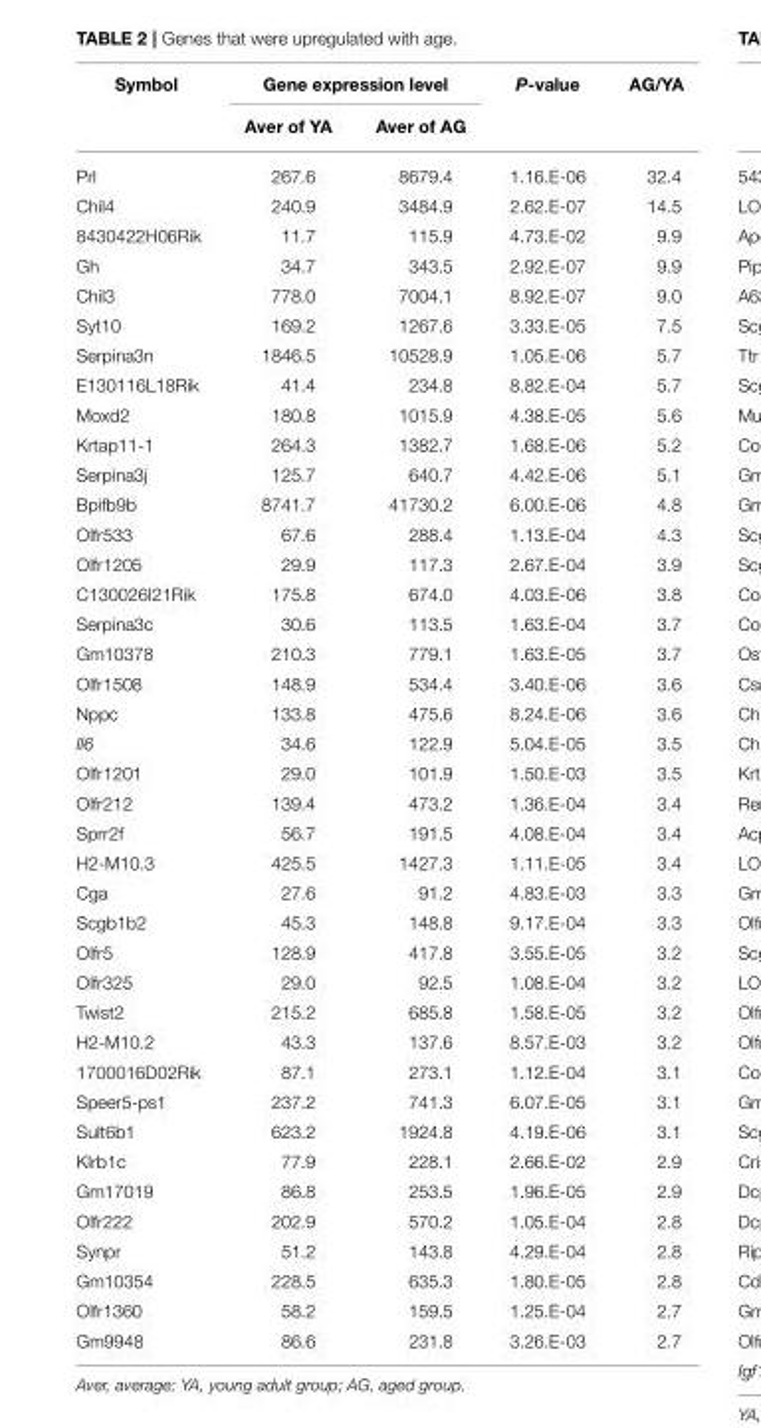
<table><thead><tr><td rowspan="2">Symbol</td><td colspan="2">Gene expression level</td><td rowspan="2">P-value</td><td rowspan="2">AG/YA</td></tr><tr><td>Aver of YA</td><td>Aver of AG</td></tr></thead><tbody><tr><td>Prl</td><td>267.6</td><td>8679.4</td><td>1.16.E-06</td><td>32.4</td></tr><tr><td>Chil4</td><td>240.9</td><td>3484.9</td><td>2.62.E-07</td><td>14.5</td></tr><tr><td>8430422H06Rik</td><td>11.7</td><td>115.9</td><td>4.73.E-02</td><td>9.9</td></tr><tr><td>Gh</td><td>34.7</td><td>343.5</td><td>2.92.E-07</td><td>9.9</td></tr><tr><td>Chil3</td><td>778.0</td><td>7004.1</td><td>8.92.E-07</td><td>9.0</td></tr><tr><td>Syt10</td><td>169.2</td><td>1267.6</td><td>3.33.E-05</td><td>7.5</td></tr><tr><td>Serpina3n</td><td>1846.5</td><td>10528.9</td><td>1.05.E-06</td><td>5.7</td></tr><tr><td>E130116L18Rik</td><td>41.4</td><td>234.8</td><td>8.82.E-04</td><td>5.7</td></tr><tr><td>Moxd2</td><td>180.8</td><td>1015.9</td><td>4.38.E-05</td><td>5.6</td></tr><tr><td>Krtap11-1</td><td>264.3</td><td>1382.7</td><td>1.68.E-06</td><td>5.2</td></tr><tr><td>Serpina3j</td><td>125.7</td><td>640.7</td><td>4.42.E-06</td><td>5.1</td></tr><tr><td>Bpifb9b</td><td>8741.7</td><td>41730.2</td><td>6.00.E-06</td><td>4.8</td></tr><tr><td>Olfr533</td><td>67.6</td><td>288.4</td><td>1.13.E-04</td><td>4.3</td></tr><tr><td>Olfr1205</td><td>29.9</td><td>117.3</td><td>2.67.E-04</td><td>3.9</td></tr><tr><td>C130026I21Rik</td><td>175.8</td><td>674.0</td><td>4.03.E-06</td><td>3.8</td></tr><tr><td>Serpina3c</td><td>30.6</td><td>113.5</td><td>1.63.E-04</td><td>3.7</td></tr><tr><td>Gm10378</td><td>210.3</td><td>779.1</td><td>1.63.E-05</td><td>3.7</td></tr><tr><td>Olfr1508</td><td>148.9</td><td>534.4</td><td>3.40.E-06</td><td>3.6</td></tr><tr><td>Nppc</td><td>133.8</td><td>475.6</td><td>8.24.E-06</td><td>3.6</td></tr><tr><td>Il6</td><td>34.6</td><td>122.9</td><td>5.04.E-05</td><td>3.5</td></tr><tr><td>Olfr1201</td><td>29.0</td><td>101.9</td><td>1.50.E-03</td><td>3.5</td></tr><tr><td>Olfr212</td><td>139.4</td><td>473.2</td><td>1.36.E-04</td><td>3.4</td></tr><tr><td>Sprr2f</td><td>56.7</td><td>191.5</td><td>4.08.E-04</td><td>3.4</td></tr><tr><td>H2-M10.3</td><td>425.5</td><td>1427.3</td><td>1.11.E-05</td><td>3.4</td></tr><tr><td>Cga</td><td>27.6</td><td>91.2</td><td>4.83.E-03</td><td>3.3</td></tr><tr><td>Scgb1b2</td><td>45.3</td><td>148.8</td><td>9.17.E-04</td><td>3.3</td></tr><tr><td>Olfr5</td><td>128.9</td><td>417.8</td><td>3.55.E-05</td><td>3.2</td></tr><tr><td>Olfr325</td><td>29.0</td><td>92.5</td><td>1.08.E-04</td><td>3.2</td></tr><tr><td>Twist2</td><td>215.2</td><td>685.8</td><td>1.58.E-05</td><td>3.2</td></tr><tr><td>H2-M10.2</td><td>43.3</td><td>137.6</td><td>8.57.E-03</td><td>3.2</td></tr><tr><td>1700016D02Rik</td><td>87.1</td><td>273.1</td><td>1.12.E-04</td><td>3.1</td></tr><tr><td>Speer5-ps1</td><td>237.2</td><td>741.3</td><td>6.07.E-05</td><td>3.1</td></tr><tr><td>Sult6b1</td><td>623.2</td><td>1924.8</td><td>4.19.E-06</td><td>3.1</td></tr><tr><td>Klrb1c</td><td>77.9</td><td>228.1</td><td>2.66.E-02</td><td>2.9</td></tr><tr><td>Gm17019</td><td>86.8</td><td>253.5</td><td>1.96.E-05</td><td>2.9</td></tr><tr><td>Olfr222</td><td>202.9</td><td>570.2</td><td>1.05.E-04</td><td>2.8</td></tr><tr><td>Synpr</td><td>51.2</td><td>143.8</td><td>4.29.E-04</td><td>2.8</td></tr><tr><td>Gm10354</td><td>228.5</td><td>635.3</td><td>1.80.E-05</td><td>2.8</td></tr><tr><td>Olfr1360</td><td>58.2</td><td>159.5</td><td>1.25.E-04</td><td>2.7</td></tr><tr><td>Gm9948</td><td>86.6</td><td>231.8</td><td>3.26.E-03</td><td>2.7</td></tr></tbody></table>